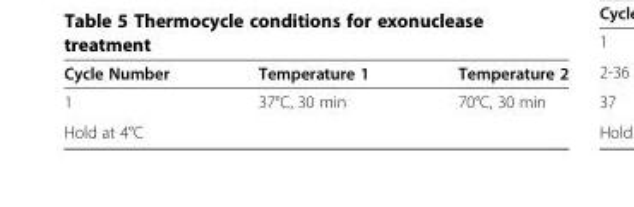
<table><thead><tr><td>Cycle Number</td><td>Temperature 1</td><td>Temperature 2</td></tr></thead><tbody><tr><td>1</td><td>37°C, 30 min</td><td>70°C, 30 min</td></tr><tr><td>Hold at 4°C</td><td></td><td></td></tr></tbody></table>